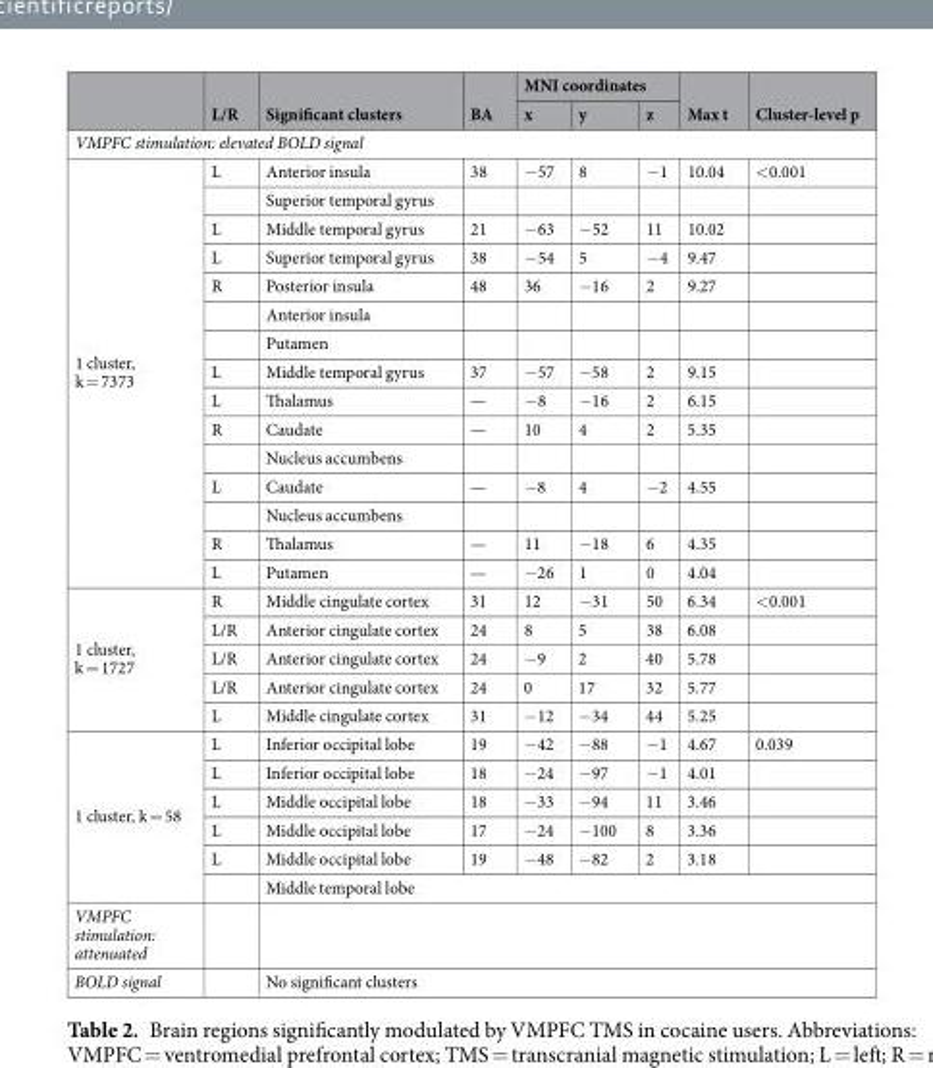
<table><thead><tr><td rowspan="2"></td><td rowspan="2">L/R</td><td rowspan="2">Significant clusters</td><td rowspan="2">BA</td><td colspan="3">MNI coordinates</td><td rowspan="2">Max t</td><td rowspan="2">Cluster-level p</td></tr><tr><td>x</td><td>y</td><td>z</td></tr></thead><tbody><tr><td colspan="9">VMPFC stimulation: elevated BOLD signal</td></tr><tr><td rowspan="15">1 cluster, k = 7373</td><td>L</td><td>Anterior insula</td><td>38</td><td>−57</td><td>8</td><td>−1</td><td>10.04</td><td>&lt;0.001</td></tr><tr><td></td><td>Superior temporal gyrus</td><td></td><td></td><td></td><td></td><td></td><td></td></tr><tr><td>L</td><td>Middle temporal gyrus</td><td>21</td><td>−63</td><td>−52</td><td>11</td><td>10.02</td><td></td></tr><tr><td>L</td><td>Superior temporal gyrus</td><td>38</td><td>−54</td><td>5</td><td>−4</td><td>9.47</td><td></td></tr><tr><td>R</td><td>Posterior insula</td><td>48</td><td>36</td><td>−16</td><td>2</td><td>9.27</td><td></td></tr><tr><td></td><td>Anterior insula</td><td></td><td></td><td></td><td></td><td></td><td></td></tr><tr><td></td><td>Putamen</td><td></td><td></td><td></td><td></td><td></td><td></td></tr><tr><td>L</td><td>Middle temporal gyrus</td><td>37</td><td>−57</td><td>−58</td><td>2</td><td>9.15</td><td></td></tr><tr><td>L</td><td>Thalamus</td><td>—</td><td>−8</td><td>−16</td><td>2</td><td>6.15</td><td></td></tr><tr><td>R</td><td>Caudate</td><td>—</td><td>10</td><td>4</td><td>2</td><td>5.35</td><td></td></tr><tr><td></td><td>Nucleus accumbens</td><td></td><td></td><td></td><td></td><td></td><td></td></tr><tr><td>L</td><td>Caudate</td><td>—</td><td>−8</td><td>4</td><td>−2</td><td>4.55</td><td></td></tr><tr><td></td><td>Nucleus accumbens</td><td></td><td></td><td></td><td></td><td></td><td></td></tr><tr><td>R</td><td>Thalamus</td><td>—</td><td>11</td><td>−18</td><td>6</td><td>4.35</td><td></td></tr><tr><td>L</td><td>Putamen</td><td>—</td><td>−26</td><td>1</td><td>0</td><td>4.04</td><td></td></tr><tr><td rowspan="5">1 cluster, k = 1727</td><td>R</td><td>Middle cingulate cortex</td><td>31</td><td>12</td><td>−31</td><td>50</td><td>6.34</td><td>&lt;0.001</td></tr><tr><td>L/R</td><td>Anterior cingulate cortex</td><td>24</td><td>8</td><td>5</td><td>38</td><td>6.08</td><td></td></tr><tr><td>L/R</td><td>Anterior cingulate cortex</td><td>24</td><td>−9</td><td>2</td><td>40</td><td>5.78</td><td></td></tr><tr><td>L/R</td><td>Anterior cingulate cortex</td><td>24</td><td>0</td><td>17</td><td>32</td><td>5.77</td><td></td></tr><tr><td>L</td><td>Middle cingulate cortex</td><td>31</td><td>−12</td><td>−34</td><td>44</td><td>5.25</td><td></td></tr><tr><td rowspan="6">1 cluster, k = 58</td><td>L</td><td>Inferior occipital lobe</td><td>19</td><td>−42</td><td>−88</td><td>−1</td><td>4.67</td><td>0.039</td></tr><tr><td>L</td><td>Inferior occipital lobe</td><td>18</td><td>−24</td><td>−97</td><td>−1</td><td>4.01</td><td></td></tr><tr><td>L</td><td>Middle occipital lobe</td><td>18</td><td>−33</td><td>−94</td><td>11</td><td>3.46</td><td></td></tr><tr><td>L</td><td>Middle occipital lobe</td><td>17</td><td>−24</td><td>−100</td><td>8</td><td>3.36</td><td></td></tr><tr><td>L</td><td>Middle occipital lobe</td><td>19</td><td>−48</td><td>−82</td><td>2</td><td>3.18</td><td></td></tr><tr><td></td><td colspan="7">Middle temporal lobe</td></tr><tr><td colspan="9">VMPFC stimulation: attenuated</td></tr><tr><td>BOLD signal</td><td></td><td colspan="7">No significant clusters</td></tr></tbody></table>